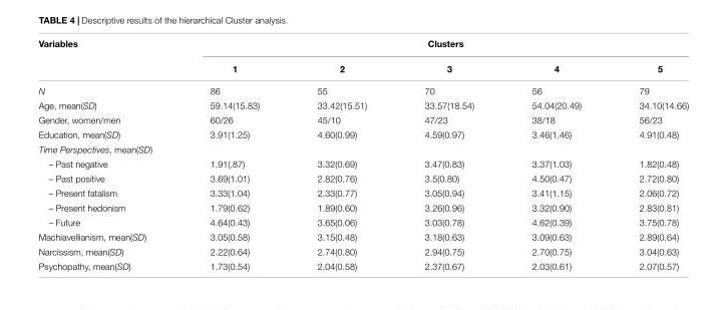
<table><thead><tr><td rowspan="2">Variables</td><td colspan="5">Clusters</td></tr><tr><td>1</td><td>2</td><td>3</td><td>4</td><td>5</td></tr></thead><tbody><tr><td>N</td><td>86</td><td>55</td><td>70</td><td>56</td><td>79</td></tr><tr><td>Age, mean(SD)</td><td>59.14(15.83)</td><td>33.42(15.51)</td><td>33.57(18.54)</td><td>54.04(20.49)</td><td>34.10(14.66)</td></tr><tr><td>Gender, women/men</td><td>60/26</td><td>45/10</td><td>47/23</td><td>38/18</td><td>56/23</td></tr><tr><td>Education, mean(SD)</td><td>3.91(1.25)</td><td>4.60(0.99)</td><td>4.59(0.97)</td><td>3.46(1.46)</td><td>4.91(0.48)</td></tr><tr><td colspan="6">Time Perspectives, mean(SD)</td></tr><tr><td>– Past negative</td><td>1.91(.87)</td><td>3.32(0.69)</td><td>3.47(0.83)</td><td>3.37(1.03)</td><td>1.82(0.48)</td></tr><tr><td>– Past positive</td><td>3.69(1.01)</td><td>2.82(0.76)</td><td>3.5(0.80)</td><td>4.50(0.47)</td><td>2.72(0.80)</td></tr><tr><td>– Present fatalism</td><td>3.33(1.04)</td><td>2.33(0.77)</td><td>3.05(0.94)</td><td>3.41(1.15)</td><td>2.06(0.72)</td></tr><tr><td>– Present hedonism</td><td>1.79(0.62)</td><td>1.89(0.60)</td><td>3.26(0.96)</td><td>3.32(0.90)</td><td>2.83(0.81)</td></tr><tr><td>– Future</td><td>4.64(0.43)</td><td>3.65(0.06)</td><td>3.03(0.78)</td><td>4.62(0.39)</td><td>3.75(0.78)</td></tr><tr><td>Machiavellianism, mean(SD)</td><td>3.05(0.58)</td><td>3.15(0.48)</td><td>3.18(0.63)</td><td>3.09(0.63)</td><td>2.89(0.64)</td></tr><tr><td>Narcissism, mean(SD)</td><td>2.22(0.64)</td><td>2.74(0.80)</td><td>2.94(0.75)</td><td>2.70(0.75)</td><td>3.04(0.63)</td></tr><tr><td>Psychopathy, mean(SD)</td><td>1.73(0.54)</td><td>2.04(0.58)</td><td>2.37(0.67)</td><td>2.03(0.61)</td><td>2.07(0.57)</td></tr></tbody></table>